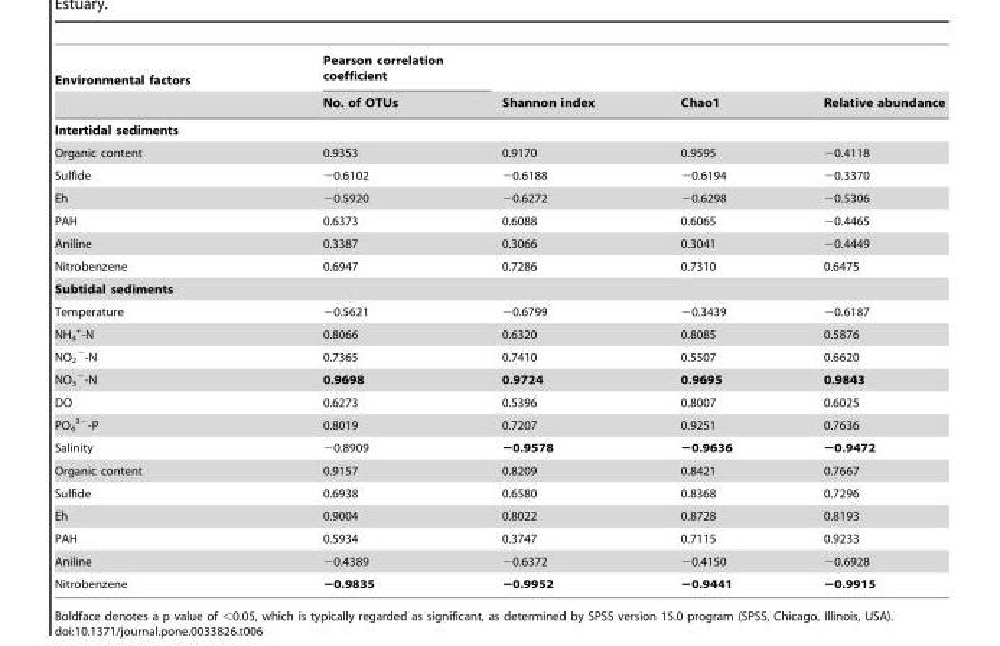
<table><thead><tr><td rowspan="2">Environmental factors</td><td rowspan="2">Pearson correlation coefficient No. of OTUs</td><td rowspan="2">Shannon index</td><td rowspan="2">Chao1</td><td rowspan="2">Relative abundance</td></tr><tr></tr></thead><tbody><tr><td colspan="5">Intertidal sediments</td></tr><tr><td>Organic content</td><td>0.9353</td><td>0.9170</td><td>0.9595</td><td>−0.4118</td></tr><tr><td>Sulfide</td><td>−0.6102</td><td>−0.6188</td><td>−0.6194</td><td>−0.3370</td></tr><tr><td>Eh</td><td>−0.5920</td><td>−0.6272</td><td>−0.6298</td><td>−0.5306</td></tr><tr><td>PAH</td><td>0.6373</td><td>0.6088</td><td>0.6065</td><td>−0.4465</td></tr><tr><td>Aniline</td><td>0.3387</td><td>0.3066</td><td>0.3041</td><td>−0.4449</td></tr><tr><td>Nitrobenzene</td><td>0.6947</td><td>0.7286</td><td>0.7310</td><td>0.6475</td></tr><tr><td colspan="5">Subtidal sediments</td></tr><tr><td>Temperature</td><td>−0.5621</td><td>−0.6799</td><td>−0.3439</td><td>−0.6187</td></tr><tr><td>NH<sub>4</sub> <sup>+</sup>-N</td><td>0.8066</td><td>0.6320</td><td>0.8085</td><td>0.5876</td></tr><tr><td>NO<sub>2</sub> <sup>−</sup>-N</td><td>0.7365</td><td>0.7410</td><td>0.5507</td><td>0.6620</td></tr><tr><td>NO<sub>3</sub> <sup>−</sup>-N</td><td>0.9698</td><td>0.9724</td><td>0.9695</td><td>0.9843</td></tr><tr><td>DO</td><td>0.6273</td><td>0.5396</td><td>0.8007</td><td>0.6025</td></tr><tr><td>PO<sub>4</sub> <sup>3−</sup>-P</td><td>0.8019</td><td>0.7207</td><td>0.9251</td><td>0.7636</td></tr><tr><td>Salinity</td><td>−0.8909</td><td>−0.9578</td><td>−0.9636</td><td>−0.9472</td></tr><tr><td>Organic content</td><td>0.9157</td><td>0.8209</td><td>0.8421</td><td>0.7667</td></tr><tr><td>Sulfide</td><td>0.6938</td><td>0.6580</td><td>0.8368</td><td>0.7296</td></tr><tr><td>Eh</td><td>0.9004</td><td>0.8022</td><td>0.8728</td><td>0.8193</td></tr><tr><td>PAH</td><td>0.5934</td><td>0.3747</td><td>0.7115</td><td>0.9233</td></tr><tr><td>Aniline</td><td>−0.4389</td><td>−0.6372</td><td>−0.4150</td><td>−0.6928</td></tr><tr><td>Nitrobenzene</td><td>−0.9835</td><td>−0.9952</td><td>−0.9441</td><td>−0.9915</td></tr></tbody></table>